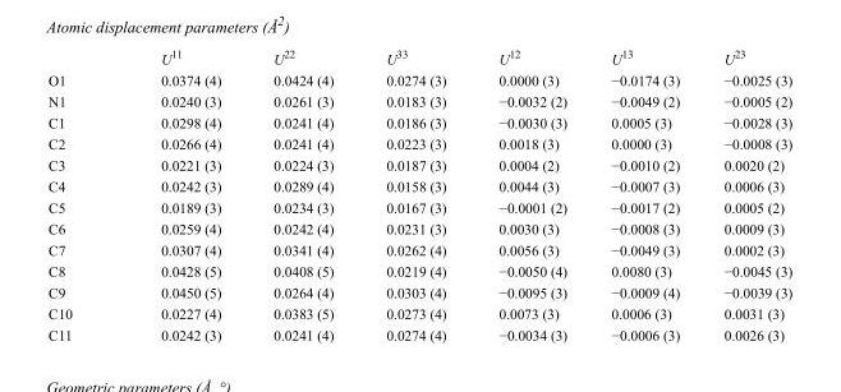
<table><thead><tr><td></td><td>U<sup>11</sup></td><td>U<sup>22</sup></td><td>U<sup>33</sup></td><td>U<sup>12</sup></td><td>U<sup>13</sup></td><td>U<sup>23</sup></td></tr></thead><tbody><tr><td>O1</td><td>0.0374 (4)</td><td>0.0424 (4)</td><td>0.0274 (3)</td><td>0.0000 (3)</td><td>−0.0174 (3)</td><td>−0.0025 (3)</td></tr><tr><td>N1</td><td>0.0240 (3)</td><td>0.0261 (3)</td><td>0.0183 (3)</td><td>−0.0032 (2)</td><td>−0.0049 (2)</td><td>−0.0005 (2)</td></tr><tr><td>C1</td><td>0.0298 (4)</td><td>0.0241 (4)</td><td>0.0186 (3)</td><td>−0.0030 (3)</td><td>0.0005 (3)</td><td>−0.0028 (3)</td></tr><tr><td>C2</td><td>0.0266 (4)</td><td>0.0241 (4)</td><td>0.0223 (3)</td><td>0.0018 (3)</td><td>0.0000 (3)</td><td>−0.0008 (3)</td></tr><tr><td>C3</td><td>0.0221 (3)</td><td>0.0224 (3)</td><td>0.0187 (3)</td><td>0.0004 (2)</td><td>−0.0010 (2)</td><td>0.0020 (2)</td></tr><tr><td>C4</td><td>0.0242 (3)</td><td>0.0289 (4)</td><td>0.0158 (3)</td><td>0.0044 (3)</td><td>−0.0007 (3)</td><td>0.0006 (3)</td></tr><tr><td>C5</td><td>0.0189 (3)</td><td>0.0234 (3)</td><td>0.0167 (3)</td><td>−0.0001 (2)</td><td>−0.0017 (2)</td><td>0.0005 (2)</td></tr><tr><td>C6</td><td>0.0259 (4)</td><td>0.0242 (4)</td><td>0.0231 (3)</td><td>0.0030 (3)</td><td>−0.0008 (3)</td><td>0.0009 (3)</td></tr><tr><td>C7</td><td>0.0307 (4)</td><td>0.0341 (4)</td><td>0.0262 (4)</td><td>0.0056 (3)</td><td>−0.0049 (3)</td><td>0.0002 (3)</td></tr><tr><td>C8</td><td>0.0428 (5)</td><td>0.0408 (5)</td><td>0.0219 (4)</td><td>−0.0050 (4)</td><td>0.0080 (3)</td><td>−0.0045 (3)</td></tr><tr><td>C9</td><td>0.0450 (5)</td><td>0.0264 (4)</td><td>0.0303 (4)</td><td>−0.0095 (3)</td><td>−0.0009 (4)</td><td>−0.0039 (3)</td></tr><tr><td>C10</td><td>0.0227 (4)</td><td>0.0383 (5)</td><td>0.0273 (4)</td><td>0.0073 (3)</td><td>0.0006 (3)</td><td>0.0031 (3)</td></tr><tr><td>C11</td><td>0.0242 (3)</td><td>0.0241 (4)</td><td>0.0274 (4)</td><td>−0.0034 (3)</td><td>−0.0006 (3)</td><td>0.0026 (3)</td></tr></tbody></table>